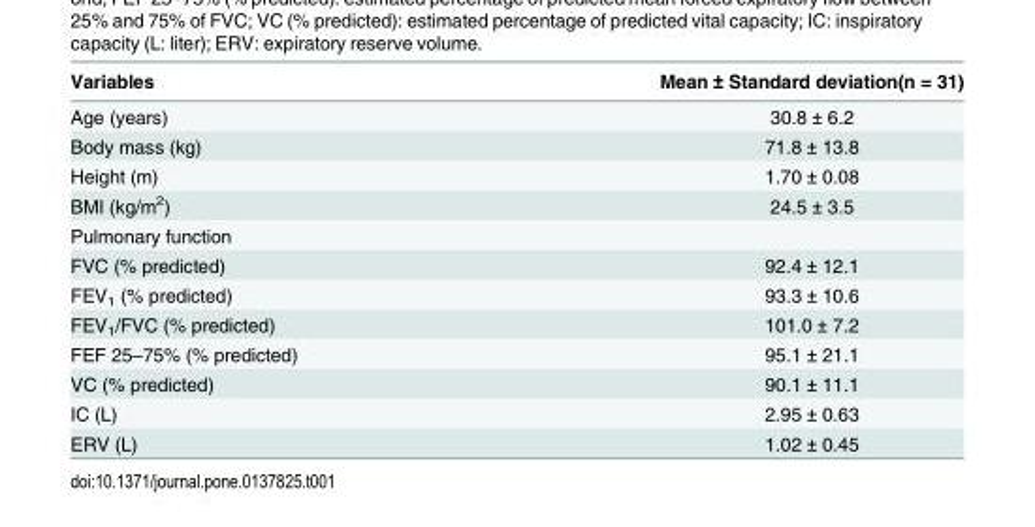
<table><thead><tr><td>Variables</td><td>Mean ± Standard deviation(n = 31)</td></tr></thead><tbody><tr><td>Age (years)</td><td>30.8 ± 6.2</td></tr><tr><td>Body mass (kg)</td><td>71.8 ± 13.8</td></tr><tr><td>Height (m)</td><td>1.70 ± 0.08</td></tr><tr><td>BMI (kg/m<sup>2</sup>)</td><td>24.5 ± 3.5</td></tr><tr><td colspan="2">Pulmonary function</td></tr><tr><td>FVC (% predicted)</td><td>92.4 ± 12.1</td></tr><tr><td>FEV<sub>1</sub> (% predicted)</td><td>93.3 ± 10.6</td></tr><tr><td>FEV<sub>1</sub>/FVC (% predicted)</td><td>101.0 ± 7.2</td></tr><tr><td>FEF 25–75% (% predicted)</td><td>95.1 ± 21.1</td></tr><tr><td>VC (% predicted)</td><td>90.1 ± 11.1</td></tr><tr><td>IC (L)</td><td>2.95 ± 0.63</td></tr><tr><td>ERV (L)</td><td>1.02 ± 0.45</td></tr></tbody></table>